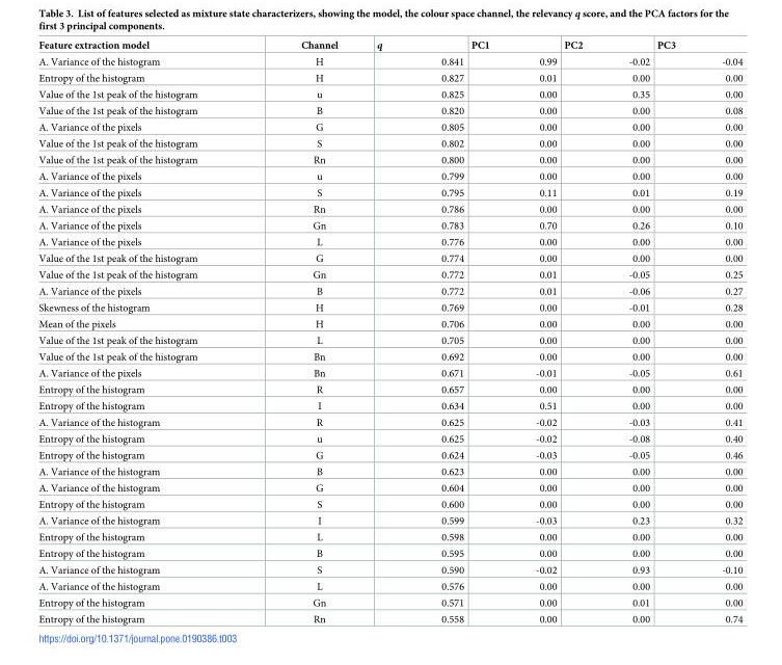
<table><thead><tr><td>Feature extraction model</td><td>Channel</td><td>q</td><td>PC1</td><td>PC2</td><td>PC3</td></tr></thead><tbody><tr><td>A. Variance of the histogram</td><td>H</td><td>0.841</td><td>0.99</td><td>-0.02</td><td>-0.04</td></tr><tr><td>Entropy of the histogram</td><td>H</td><td>0.827</td><td>0.01</td><td>0.00</td><td>0.00</td></tr><tr><td>Value of the 1st peak of the histogram</td><td>u</td><td>0.825</td><td>0.00</td><td>0.35</td><td>0.00</td></tr><tr><td>Value of the 1st peak of the histogram</td><td>B</td><td>0.820</td><td>0.00</td><td>0.00</td><td>0.08</td></tr><tr><td>A. Variance of the pixels</td><td>G</td><td>0.805</td><td>0.00</td><td>0.00</td><td>0.00</td></tr><tr><td>Value of the 1st peak of the histogram</td><td>S</td><td>0.802</td><td>0.00</td><td>0.00</td><td>0.00</td></tr><tr><td>Value of the 1st peak of the histogram</td><td>Rn</td><td>0.800</td><td>0.00</td><td>0.00</td><td>0.00</td></tr><tr><td>A. Variance of the pixels</td><td>u</td><td>0.799</td><td>0.00</td><td>0.00</td><td>0.00</td></tr><tr><td>A. Variance of the pixels</td><td>S</td><td>0.795</td><td>0.11</td><td>0.01</td><td>0.19</td></tr><tr><td>A. Variance of the pixels</td><td>Rn</td><td>0.786</td><td>0.00</td><td>0.00</td><td>0.00</td></tr><tr><td>A. Variance of the pixels</td><td>Gn</td><td>0.783</td><td>0.70</td><td>0.26</td><td>0.10</td></tr><tr><td>A. Variance of the pixels</td><td>L</td><td>0.776</td><td>0.00</td><td>0.00</td><td>0.00</td></tr><tr><td>Value of the 1st peak of the histogram</td><td>G</td><td>0.774</td><td>0.00</td><td>0.00</td><td>0.00</td></tr><tr><td>Value of the 1st peak of the histogram</td><td>Gn</td><td>0.772</td><td>0.01</td><td>-0.05</td><td>0.25</td></tr><tr><td>A. Variance of the pixels</td><td>B</td><td>0.772</td><td>0.01</td><td>-0.06</td><td>0.27</td></tr><tr><td>Skewness of the histogram</td><td>H</td><td>0.769</td><td>0.00</td><td>-0.01</td><td>0.28</td></tr><tr><td>Mean of the pixels</td><td>H</td><td>0.706</td><td>0.00</td><td>0.00</td><td>0.00</td></tr><tr><td>Value of the 1st peak of the histogram</td><td>L</td><td>0.705</td><td>0.00</td><td>0.00</td><td>0.00</td></tr><tr><td>Value of the 1st peak of the histogram</td><td>Bn</td><td>0.692</td><td>0.00</td><td>0.00</td><td>0.00</td></tr><tr><td>A. Variance of the pixels</td><td>Bn</td><td>0.671</td><td>-0.01</td><td>-0.05</td><td>0.61</td></tr><tr><td>Entropy of the histogram</td><td>R</td><td>0.657</td><td>0.00</td><td>0.00</td><td>0.00</td></tr><tr><td>Entropy of the histogram</td><td>I</td><td>0.634</td><td>0.51</td><td>0.00</td><td>0.00</td></tr><tr><td>A. Variance of the histogram</td><td>R</td><td>0.625</td><td>-0.02</td><td>-0.03</td><td>0.41</td></tr><tr><td>Entropy of the histogram</td><td>u</td><td>0.625</td><td>-0.02</td><td>-0.08</td><td>0.40</td></tr><tr><td>Entropy of the histogram</td><td>G</td><td>0.624</td><td>-0.03</td><td>-0.05</td><td>0.46</td></tr><tr><td>A. Variance of the histogram</td><td>B</td><td>0.623</td><td>0.00</td><td>0.00</td><td>0.00</td></tr><tr><td>A. Variance of the histogram</td><td>G</td><td>0.604</td><td>0.00</td><td>0.00</td><td>0.00</td></tr><tr><td>Entropy of the histogram</td><td>S</td><td>0.600</td><td>0.00</td><td>0.00</td><td>0.00</td></tr><tr><td>A. Variance of the histogram</td><td>I</td><td>0.599</td><td>-0.03</td><td>0.23</td><td>0.32</td></tr><tr><td>Entropy of the histogram</td><td>L</td><td>0.598</td><td>0.00</td><td>0.00</td><td>0.00</td></tr><tr><td>Entropy of the histogram</td><td>B</td><td>0.595</td><td>0.00</td><td>0.00</td><td>0.00</td></tr><tr><td>A. Variance of the histogram</td><td>S</td><td>0.590</td><td>-0.02</td><td>0.93</td><td>-0.10</td></tr><tr><td>A. Variance of the histogram</td><td>L</td><td>0.576</td><td>0.00</td><td>0.00</td><td>0.00</td></tr><tr><td>Entropy of the histogram</td><td>Gn</td><td>0.571</td><td>0.00</td><td>0.01</td><td>0.00</td></tr><tr><td>Entropy of the histogram</td><td>Rn</td><td>0.558</td><td>0.00</td><td>0.00</td><td>0.74</td></tr></tbody></table>